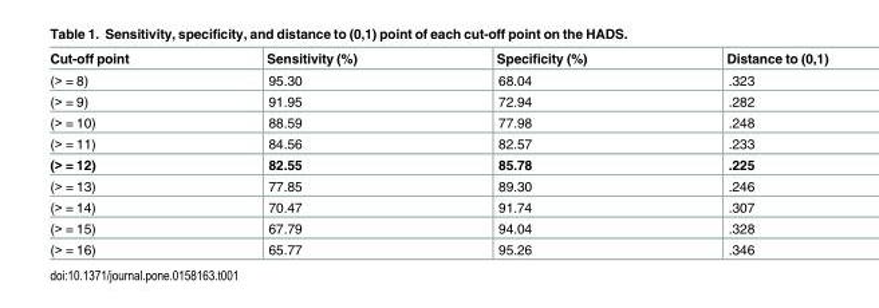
<table><thead><tr><td>Cut-off point</td><td>Sensitivity (%)</td><td>Specificity (%)</td><td>Distance to (0,1)</td></tr></thead><tbody><tr><td>(&gt; = 8)</td><td>95.30</td><td>68.04</td><td>.323</td></tr><tr><td>(&gt; = 9)</td><td>91.95</td><td>72.94</td><td>.282</td></tr><tr><td>(&gt; = 10)</td><td>88.59</td><td>77.98</td><td>.248</td></tr><tr><td>(&gt; = 11)</td><td>84.56</td><td>82.57</td><td>.233</td></tr><tr><td>(&gt; = 12)</td><td>82.55</td><td>85.78</td><td>.225</td></tr><tr><td>(&gt; = 13)</td><td>77.85</td><td>89.30</td><td>.246</td></tr><tr><td>(&gt; = 14)</td><td>70.47</td><td>91.74</td><td>.307</td></tr><tr><td>(&gt; = 15)</td><td>67.79</td><td>94.04</td><td>.328</td></tr><tr><td>(&gt; = 16)</td><td>65.77</td><td>95.26</td><td>.346</td></tr></tbody></table>